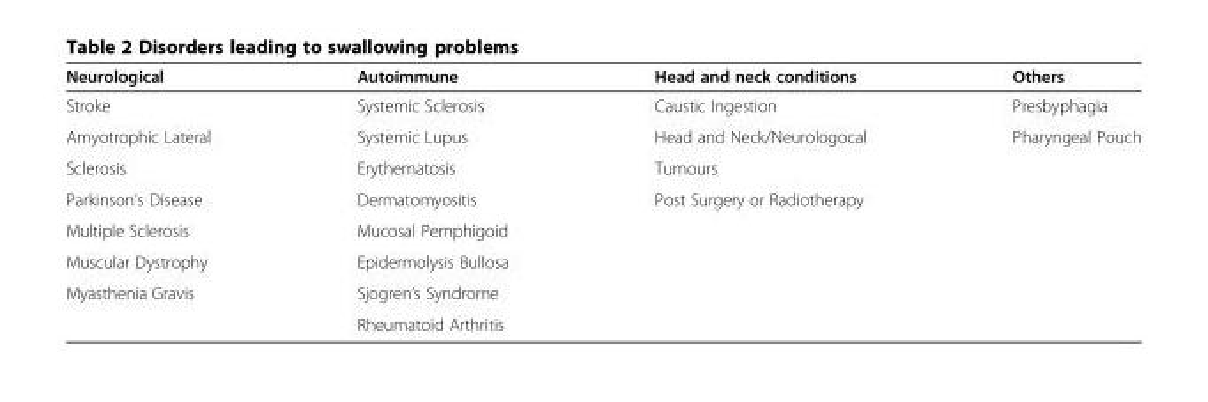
<table><thead><tr><td>Neurological</td><td>Autoimmune</td><td>Head and neck conditions</td><td>Others</td></tr></thead><tbody><tr><td>Stroke</td><td>Systemic Sclerosis</td><td>Caustic Ingestion</td><td>Presbyphagia</td></tr><tr><td>Amyotrophic Lateral</td><td>Systemic Lupus</td><td>Head and Neck/Neurologocal</td><td>Pharyngeal Pouch</td></tr><tr><td>Sclerosis</td><td>Erythematosis</td><td>Tumours</td><td></td></tr><tr><td>Parkinson’s Disease</td><td>Dermatomyositis</td><td>Post Surgery or Radiotherapy</td><td></td></tr><tr><td>Multiple Sclerosis</td><td>Mucosal Pemphigoid</td><td></td><td></td></tr><tr><td>Muscular Dystrophy</td><td>Epidermolysis Bullosa</td><td></td><td></td></tr><tr><td rowspan="2">Myasthenia Gravis</td><td>Sjogren’s Syndrome</td><td></td><td></td></tr><tr><td>Rheumatoid Arthritis</td><td></td><td></td></tr></tbody></table>